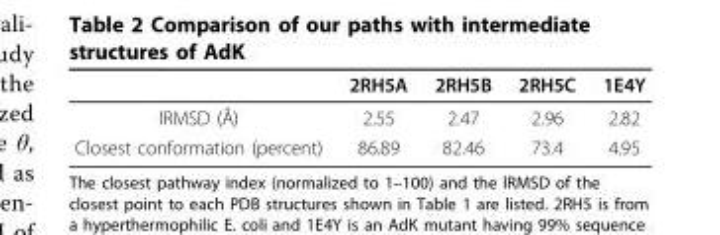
<table><thead><tr><td></td><td>2RH5A</td><td>2RH5B</td><td>2RH5C</td><td>1E4Y</td></tr></thead><tbody><tr><td>lRMSD (Å)</td><td>2.55</td><td>2.47</td><td>2.96</td><td>2.82</td></tr><tr><td>Closest conformation (percent)</td><td>86.89</td><td>82.46</td><td>73.4</td><td>4.95</td></tr></tbody></table>